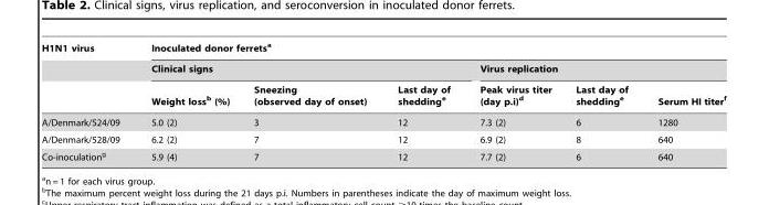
<table><thead><tr><td rowspan="3">H1N1 virus</td><td colspan="6">Inoculated donor ferrets<sup>a</sup></td></tr><tr><td colspan="3">Clinical signs</td><td colspan="3">Virus replication</td></tr><tr><td>Weight loss<sup>b</sup> (%)</td><td>Sneezing (observed day of onset)</td><td>Last day of shedding<sup>e</sup></td><td>Peak virus titer (day p.i)<sup>d</sup></td><td>Last day of shedding<sup>e</sup></td><td>Serum HI titer<sup>f</sup></td></tr></thead><tbody><tr><td>A/Denmark/524/09</td><td>5.0 (2)</td><td>3</td><td>12</td><td>7.3 (2)</td><td>6</td><td>1280</td></tr><tr><td>A/Denmark/528/09</td><td>6.2 (2)</td><td>7</td><td>12</td><td>6.9 (2)</td><td>8</td><td>640</td></tr><tr><td>Co-inoculation<sup>g</sup></td><td>5.9 (4)</td><td>7</td><td>12</td><td>7.7 (2)</td><td>6</td><td>640</td></tr></tbody></table>